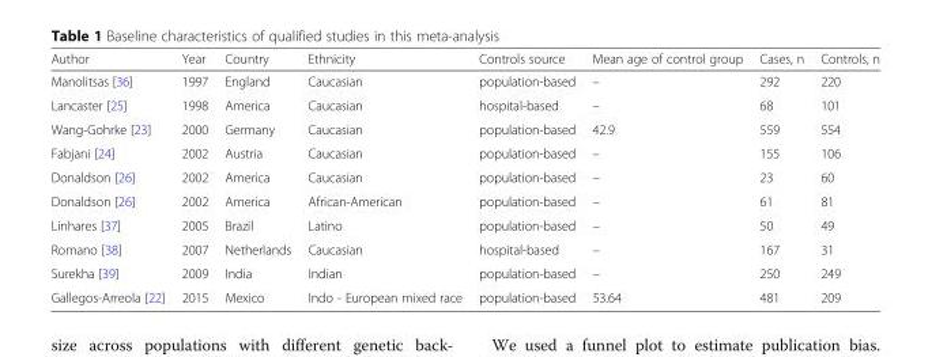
<table><thead><tr><td>Author</td><td>Year</td><td>Country</td><td>Ethnicity</td><td>Controls source</td><td>Mean age of control group</td><td>Cases, n</td><td>Controls, n</td></tr></thead><tbody><tr><td>Manolitsas [36]</td><td>1997</td><td>England</td><td>Caucasian</td><td>population-based</td><td>–</td><td>292</td><td>220</td></tr><tr><td>Lancaster [25]</td><td>1998</td><td>America</td><td>Caucasian</td><td>hospital-based</td><td>–</td><td>68</td><td>101</td></tr><tr><td>Wang-Gohrke [23]</td><td>2000</td><td>Germany</td><td>Caucasian</td><td>population-based</td><td>42.9</td><td>559</td><td>554</td></tr><tr><td>Fabjani [24]</td><td>2002</td><td>Austria</td><td>Caucasian</td><td>population-based</td><td>–</td><td>155</td><td>106</td></tr><tr><td>Donaldson [26]</td><td>2002</td><td>America</td><td>Caucasian</td><td>population-based</td><td>–</td><td>23</td><td>60</td></tr><tr><td>Donaldson [26]</td><td>2002</td><td>America</td><td>African-American</td><td>population-based</td><td>–</td><td>61</td><td>81</td></tr><tr><td>Linhares [37]</td><td>2005</td><td>Brazil</td><td>Latino</td><td>population-based</td><td>–</td><td>50</td><td>49</td></tr><tr><td>Romano [38]</td><td>2007</td><td>Netherlands</td><td>Caucasian</td><td>hospital-based</td><td>–</td><td>167</td><td>31</td></tr><tr><td>Surekha [39]</td><td>2009</td><td>India</td><td>Indian</td><td>population-based</td><td>–</td><td>250</td><td>249</td></tr><tr><td>Gallegos-Arreola [22]</td><td>2015</td><td>Mexico</td><td>Indo - European mixed race</td><td>population-based</td><td>53.64</td><td>481</td><td>209</td></tr></tbody></table>